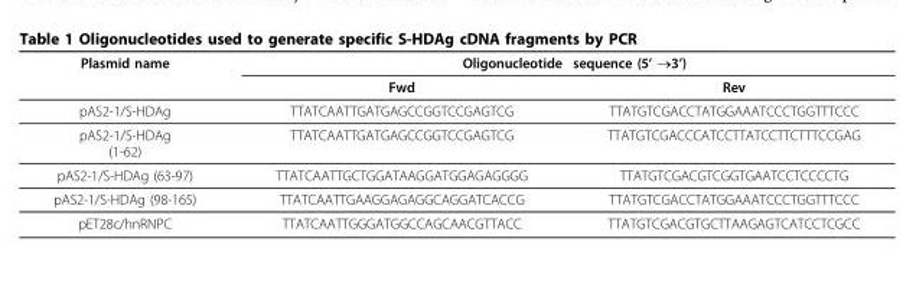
<table><thead><tr><td rowspan="2">Plasmid name</td><td rowspan="2">Oligonucleotide Fwd</td><td rowspan="2">sequence (5’ →3’) Rev</td></tr><tr></tr></thead><tbody><tr><td>pAS2-1/S-HDAg</td><td>TTATCAATTGATGAGCCGGTCCGAGTCG</td><td>TTATGTCGACCTATGGAAATCCCTGGTTTCCC</td></tr><tr><td>pAS2-1/S-HDAg (1-62)</td><td>TTATCAATTGATGAGCCGGTCCGAGTCG</td><td>TTATGTCGACCCATCCTTATCCTTCTTTCCGAG</td></tr><tr><td>pAS2-1/S-HDAg (63-97)</td><td>TTATCAATTGCTGGATAAGGATGGAGAGGGG</td><td>TTATGTCGACGTCGGTGAATCCTCCCCTG</td></tr><tr><td>pAS2-1/S-HDAg (98-165)</td><td>TTATCAATTGAAGGAGAGGCAGGATCACCG</td><td>TTATGTCGACCTATGGAAATCCCTGGTTTCCC</td></tr><tr><td>pET28c/hnRNPC</td><td>TTATCAATTGGGATGGCCAGCAACGTTACC</td><td>TTATGTCGACGTGCTTAAGAGTCATCCTCGCC</td></tr></tbody></table>